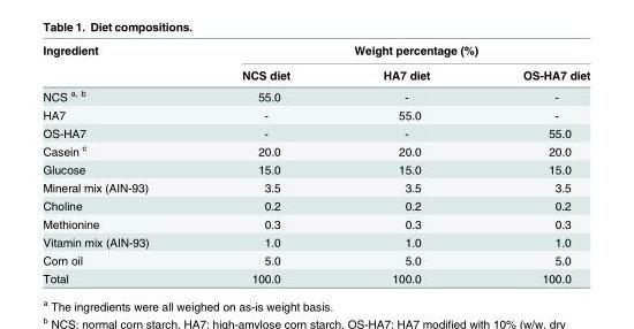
<table><thead><tr><td rowspan="2">Ingredient</td><td colspan="3">Weight percentage (%)</td></tr><tr><td>NCS diet</td><td>HA7 diet</td><td>OS-HA7 diet</td></tr></thead><tbody><tr><td>NCS <sup>a, b</sup></td><td>55.0</td><td>-</td><td>-</td></tr><tr><td>HA7</td><td>-</td><td>55.0</td><td>-</td></tr><tr><td>OS-HA7</td><td>-</td><td>-</td><td>55.0</td></tr><tr><td>Casein <sup>c</sup></td><td>20.0</td><td>20.0</td><td>20.0</td></tr><tr><td>Glucose</td><td>15.0</td><td>15.0</td><td>15.0</td></tr><tr><td>Mineral mix (AIN-93)</td><td>3.5</td><td>3.5</td><td>3.5</td></tr><tr><td>Choline</td><td>0.2</td><td>0.2</td><td>0.2</td></tr><tr><td>Methionine</td><td>0.3</td><td>0.3</td><td>0.3</td></tr><tr><td>Vitamin mix (AIN-93)</td><td>1.0</td><td>1.0</td><td>1.0</td></tr><tr><td>Corn oil</td><td>5.0</td><td>5.0</td><td>5.0</td></tr><tr><td>Total</td><td>100.0</td><td>100.0</td><td>100.0</td></tr></tbody></table>